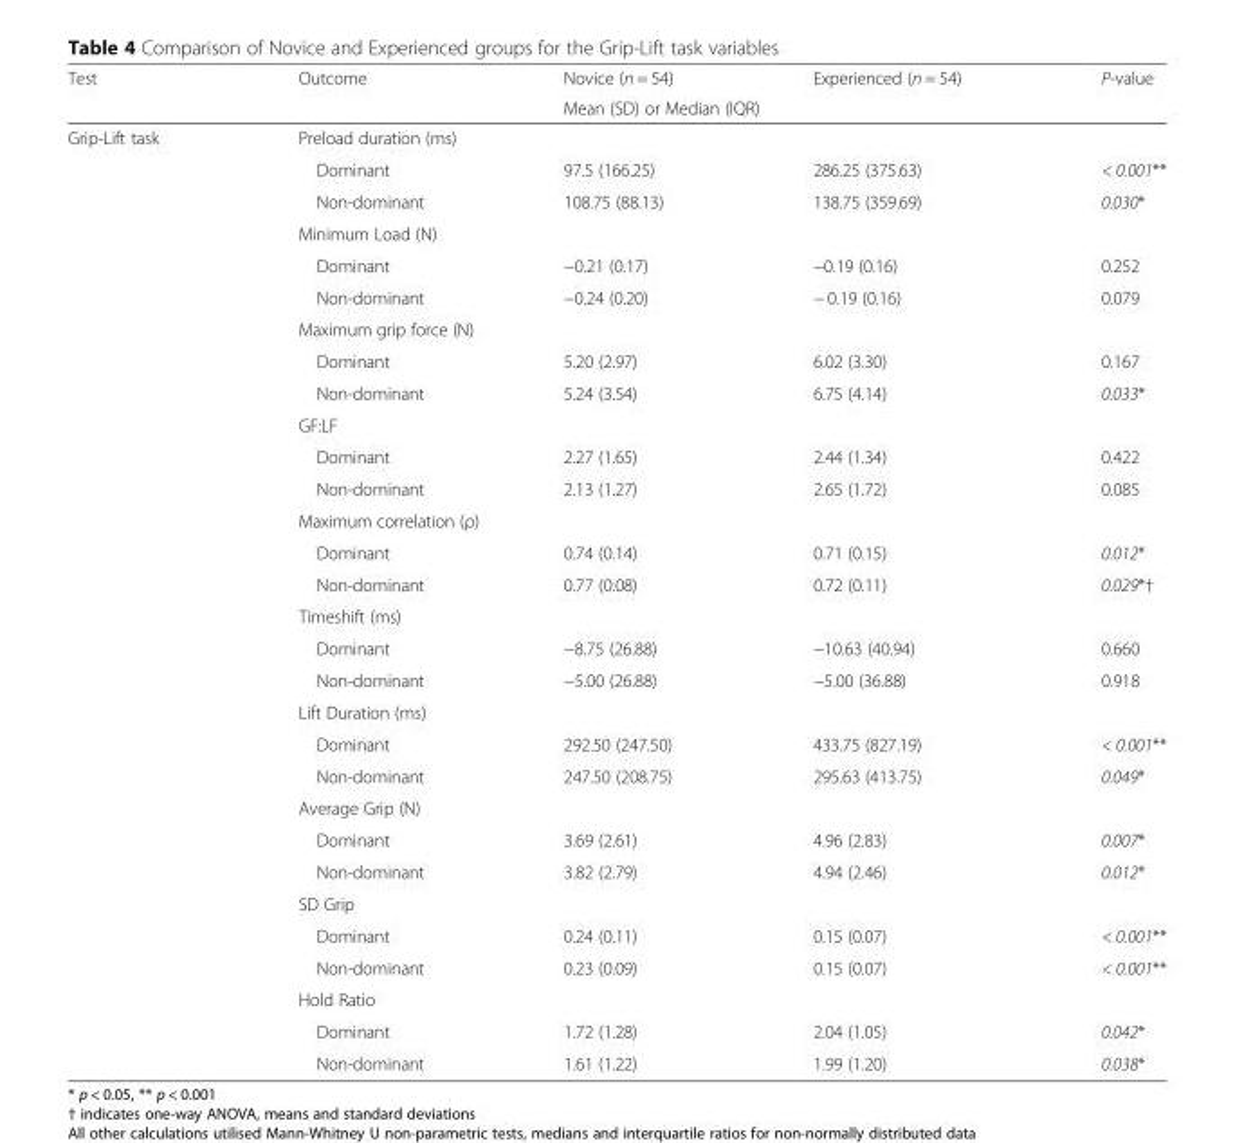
<table><thead><tr><td rowspan="2">Test</td><td rowspan="2">Outcome</td><td>Novice (n = 54)</td><td>Experienced (n = 54)</td><td rowspan="2">P-value</td></tr><tr><td colspan="2">Mean (SD) or Median (IQR)</td></tr></thead><tbody><tr><td rowspan="30">Grip-Lift task</td><td colspan="4">Preload duration (ms)</td></tr><tr><td>Dominant</td><td>97.5 (166.25)</td><td>286.25 (375.63)</td><td>&lt; 0.001**</td></tr><tr><td>Non-dominant</td><td>108.75 (88.13)</td><td>138.75 (359.69)</td><td>0.030*</td></tr><tr><td colspan="4">Minimum Load (N)</td></tr><tr><td>Dominant</td><td>−0.21 (0.17)</td><td>−0.19 (0.16)</td><td>0.252</td></tr><tr><td>Non-dominant</td><td>−0.24 (0.20)</td><td>− 0.19 (0.16)</td><td>0.079</td></tr><tr><td colspan="4">Maximum grip force (N)</td></tr><tr><td>Dominant</td><td>5.20 (2.97)</td><td>6.02 (3.30)</td><td>0.167</td></tr><tr><td>Non-dominant</td><td>5.24 (3.54)</td><td>6.75 (4.14)</td><td>0.033*</td></tr><tr><td colspan="4">GF:LF</td></tr><tr><td>Dominant</td><td>2.27 (1.65)</td><td>2.44 (1.34)</td><td>0.422</td></tr><tr><td>Non-dominant</td><td>2.13 (1.27)</td><td>2.65 (1.72)</td><td>0.085</td></tr><tr><td colspan="4">Maximum correlation (ρ)</td></tr><tr><td>Dominant</td><td>0.74 (0.14)</td><td>0.71 (0.15)</td><td>0.012*</td></tr><tr><td>Non-dominant</td><td>0.77 (0.08)</td><td>0.72 (0.11)</td><td>0.029*†</td></tr><tr><td colspan="4">Timeshift (ms)</td></tr><tr><td>Dominant</td><td>−8.75 (26.88)</td><td>−10.63 (40.94)</td><td>0.660</td></tr><tr><td>Non-dominant</td><td>−5.00 (26.88)</td><td>−5.00 (36.88)</td><td>0.918</td></tr><tr><td colspan="4">Lift Duration (ms)</td></tr><tr><td>Dominant</td><td>292.50 (247.50)</td><td>433.75 (827.19)</td><td>&lt; 0.001**</td></tr><tr><td>Non-dominant</td><td>247.50 (208.75)</td><td>295.63 (413.75)</td><td>0.049*</td></tr><tr><td colspan="4">Average Grip (N)</td></tr><tr><td>Dominant</td><td>3.69 (2.61)</td><td>4.96 (2.83)</td><td>0.007*</td></tr><tr><td>Non-dominant</td><td>3.82 (2.79)</td><td>4.94 (2.46)</td><td>0.012*</td></tr><tr><td colspan="4">SD Grip</td></tr><tr><td>Dominant</td><td>0.24 (0.11)</td><td>0.15 (0.07)</td><td>&lt; 0.001**</td></tr><tr><td>Non-dominant</td><td>0.23 (0.09)</td><td>0.15 (0.07)</td><td>&lt; 0.001**</td></tr><tr><td colspan="4">Hold Ratio</td></tr><tr><td>Dominant</td><td>1.72 (1.28)</td><td>2.04 (1.05)</td><td>0.042*</td></tr><tr><td>Non-dominant</td><td>1.61 (1.22)</td><td>1.99 (1.20)</td><td>0.038*</td></tr></tbody></table>